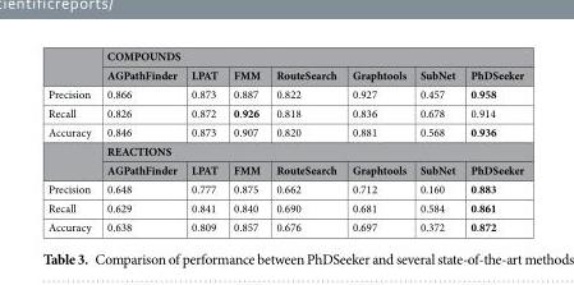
<table><thead><tr><td rowspan="2"></td><td colspan="7">COMPOUNDS</td></tr><tr><td>AGPathFinder</td><td>LPAT</td><td>FMM</td><td>RouteSearch</td><td>Graphtools</td><td>SubNet</td><td>PhDSeeker</td></tr></thead><tbody><tr><td>Precision</td><td>0.866</td><td>0.873</td><td>0.887</td><td>0.822</td><td>0.927</td><td>0.457</td><td>0.958</td></tr><tr><td>Recall</td><td>0.826</td><td>0.872</td><td>0.926</td><td>0.818</td><td>0.836</td><td>0.678</td><td>0.914</td></tr><tr><td rowspan="3">Accuracy</td><td>0.846</td><td>0.873</td><td>0.907</td><td>0.820</td><td>0.881</td><td>0.568</td><td>0.936</td></tr><tr><td colspan="7">REACTIONS</td></tr><tr><td>AGPathFinder</td><td>LPAT</td><td>FMM</td><td>RouteSearch</td><td>Graphtools</td><td>SubNet</td><td>PhDSeeker</td></tr><tr><td>Precision</td><td>0.648</td><td>0.777</td><td>0.875</td><td>0.662</td><td>0.712</td><td>0.160</td><td>0.883</td></tr><tr><td>Recall</td><td>0.629</td><td>0.841</td><td>0.840</td><td>0.690</td><td>0.681</td><td>0.584</td><td>0.861</td></tr><tr><td>Accuracy</td><td>0.638</td><td>0.809</td><td>0.857</td><td>0.676</td><td>0.697</td><td>0.372</td><td>0.872</td></tr></tbody></table>